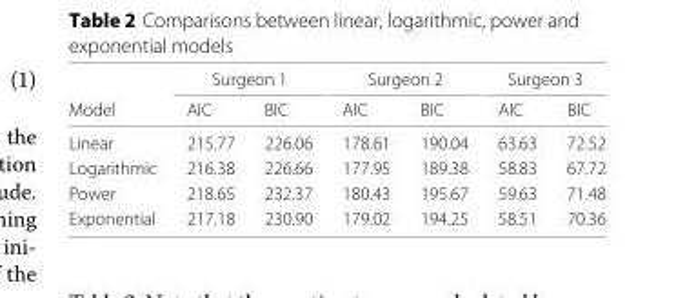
<table><thead><tr><td rowspan="2">Model</td><td colspan="2">Surgeon 1</td><td colspan="2">Surgeon 2</td><td colspan="2">Surgeon 3</td></tr><tr><td>AIC</td><td>BIC</td><td>AIC</td><td>BIC</td><td>AIC</td><td>BIC</td></tr></thead><tbody><tr><td>Linear</td><td>215.77</td><td>226.06</td><td>178.61</td><td>190.04</td><td>63.63</td><td>72.52</td></tr><tr><td>Logarithmic</td><td>216.38</td><td>226.66</td><td>177.95</td><td>189.38</td><td>58.83</td><td>67.72</td></tr><tr><td>Power</td><td>218.65</td><td>232.37</td><td>180.43</td><td>195.67</td><td>59.63</td><td>71.48</td></tr><tr><td>Exponential</td><td>217.18</td><td>230.90</td><td>179.02</td><td>194.25</td><td>58.51</td><td>70.36</td></tr></tbody></table>